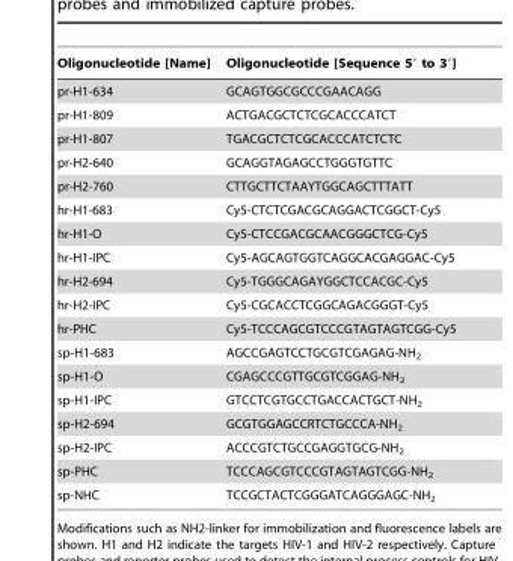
<table><thead><tr><td>Oligonucleotide [Name]</td><td>Oligonucleotide [Sequence 5′ to 3′]</td></tr></thead><tbody><tr><td>pr-H1-634</td><td>GCAGTGGCGCCCGAACAGG</td></tr><tr><td>pr-H1-809</td><td>ACTGACGCTCTCGCACCCATCT</td></tr><tr><td>pr-H1-807</td><td>TGACGCTCTCGCACCCATCTCTC</td></tr><tr><td>pr-H2-640</td><td>GCAGGTAGAGCCTGGGTGTTC</td></tr><tr><td>pr-H2-760</td><td>CTTGCTTCTAAYTGGCAGCTTTATT</td></tr><tr><td>hr-H1-683</td><td>Cy5-CTCTCGACGCAGGACTCGGCT-Cy5</td></tr><tr><td>hr-H1-O</td><td>Cy5-CTCCGACGCAACGGGCTCG-Cy5</td></tr><tr><td>hr-H1-IPC</td><td>Cy5-AGCAGTGGTCAGGCACGAGGAC-Cy5</td></tr><tr><td>hr-H2-694</td><td>Cy5-TGGGCAGAYGGCTCCACGC-Cy5</td></tr><tr><td>hr-H2-IPC</td><td>Cy5-CGCACCTCGGCAGACGGGT-Cy5</td></tr><tr><td>hr-PHC</td><td>Cy5-TCCCAGCGTCCCGTAGTAGTCGG-Cy5</td></tr><tr><td>sp-H1-683</td><td>AGCCGAGTCCTGCGTCGAGAG-NH<sub>2</sub></td></tr><tr><td>sp-H1-O</td><td>CGAGCCCGTTGCGTCGGAG-NH<sub>2</sub></td></tr><tr><td>sp-H1-IPC</td><td>GTCCTCGTGCCTGACCACTGCT-NH<sub>2</sub></td></tr><tr><td>sp-H2-694</td><td>GCGTGGAGCCRTCTGCCCA-NH<sub>2</sub></td></tr><tr><td>sp-H2-IPC</td><td>ACCCGTCTGCCGAGGTGCG-NH<sub>2</sub></td></tr><tr><td>sp-PHC</td><td>TCCCAGCGTCCCGTAGTAGTCGG-NH<sub>2</sub></td></tr><tr><td>sp-NHC</td><td>TCCGCTACTCGGGATCAGGGAGC-NH<sub>2</sub></td></tr></tbody></table>